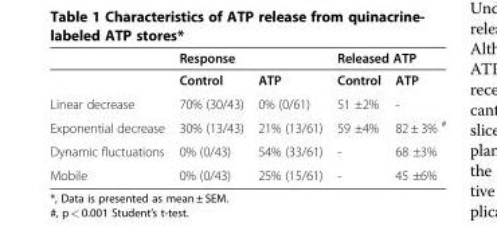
<table><thead><tr><td rowspan="2"></td><td colspan="2">Response</td><td colspan="2">Released ATP</td></tr><tr><td>Control</td><td>ATP</td><td>Control</td><td>ATP</td></tr></thead><tbody><tr><td>Linear decrease</td><td>70% (30/43)</td><td>0% (0/61)</td><td>51 ±2%</td><td>-</td></tr><tr><td>Exponential decrease</td><td>30% (13/43)</td><td>21% (13/61)</td><td>59 ±4%</td><td>82 ± 3% <sup>#</sup></td></tr><tr><td>Dynamic fluctuations</td><td>0% (0/43)</td><td>54% (33/61)</td><td>-</td><td>68 ±3%</td></tr><tr><td>Mobile</td><td>0% (0/43)</td><td>25% (15/61)</td><td>-</td><td>45 ±6%</td></tr></tbody></table>